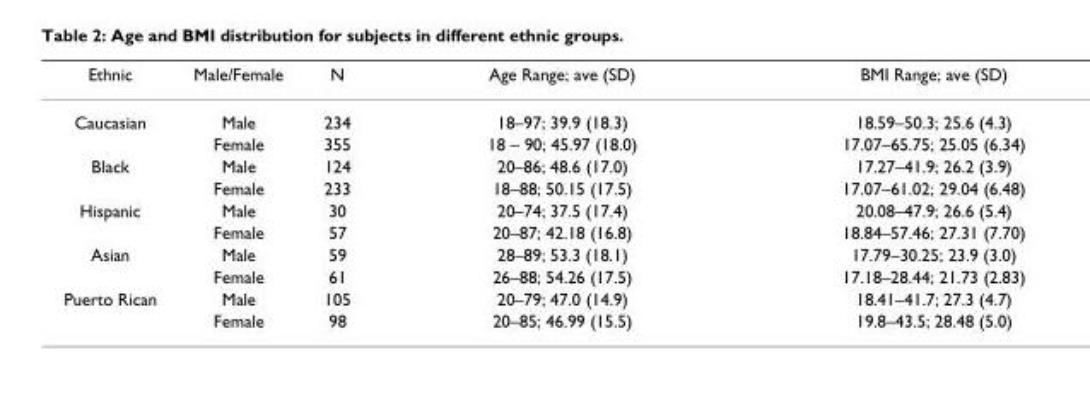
<table><thead><tr><td>Ethnic</td><td>Male/Female</td><td>N</td><td>Age Range; ave (SD)</td><td>BMI Range; ave (SD)</td></tr></thead><tbody><tr><td rowspan="2">Caucasian</td><td>Male</td><td>234</td><td>18–97; 39.9 (18.3)</td><td>18.59–50.3; 25.6 (4.3)</td></tr><tr><td>Female</td><td>355</td><td>18 – 90; 45.97 (18.0)</td><td>17.07–65.75; 25.05 (6.34)</td></tr><tr><td rowspan="2">Black</td><td>Male</td><td>124</td><td>20–86; 48.6 (17.0)</td><td>17.27–41.9; 26.2 (3.9)</td></tr><tr><td>Female</td><td>233</td><td>18–88; 50.15 (17.5)</td><td>17.07–61.02; 29.04 (6.48)</td></tr><tr><td rowspan="2">Hispanic</td><td>Male</td><td>30</td><td>20–74; 37.5 (17.4)</td><td>20.08–47.9; 26.6 (5.4)</td></tr><tr><td>Female</td><td>57</td><td>20–87; 42.18 (16.8)</td><td>18.84–57.46; 27.31 (7.70)</td></tr><tr><td rowspan="2">Asian</td><td>Male</td><td>59</td><td>28–89; 53.3 (18.1)</td><td>17.79–30.25; 23.9 (3.0)</td></tr><tr><td>Female</td><td>61</td><td>26–88; 54.26 (17.5)</td><td>17.18–28.44; 21.73 (2.83)</td></tr><tr><td rowspan="2">Puerto Rican</td><td>Male</td><td>105</td><td>20–79; 47.0 (14.9)</td><td>18.41–41.7; 27.3 (4.7)</td></tr><tr><td>Female</td><td>98</td><td>20–85; 46.99 (15.5)</td><td>19.8–43.5; 28.48 (5.0)</td></tr></tbody></table>